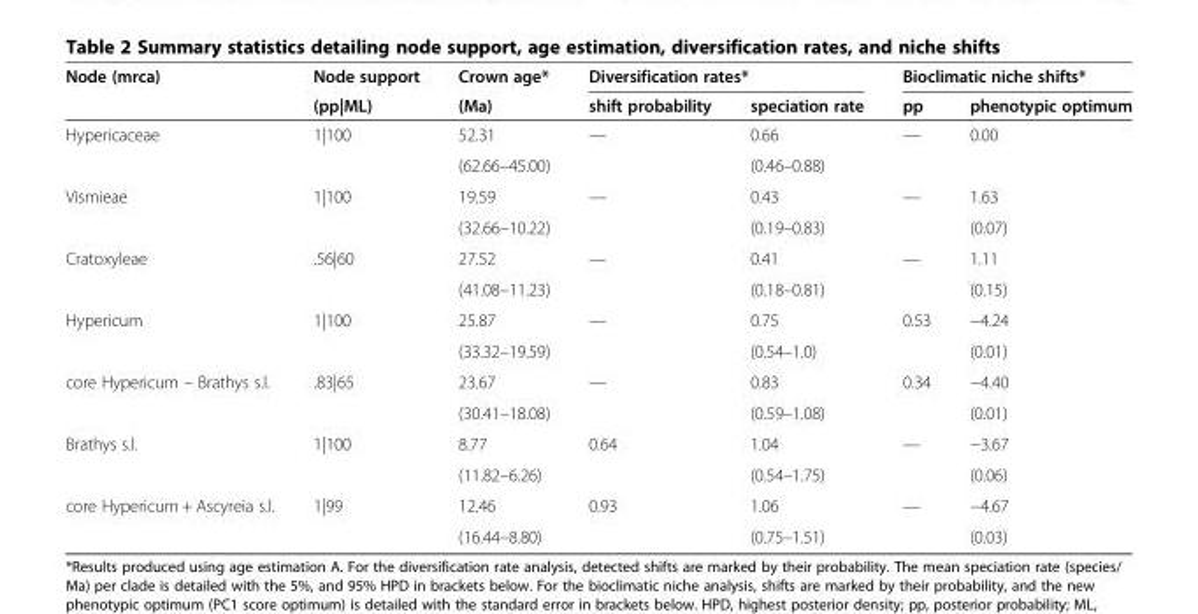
<table><thead><tr><td rowspan="2">Node (mrca)</td><td rowspan="2">Node support (pp|ML)</td><td rowspan="2">Crown age* (Ma)</td><td colspan="2">Diversification rates*</td><td colspan="2">Bioclimatic niche shifts*</td></tr><tr><td>shift probability</td><td>speciation rate</td><td>pp</td><td>phenotypic optimum</td></tr></thead><tbody><tr><td rowspan="2">Hypericaceae</td><td>1|100</td><td>52.31</td><td>—</td><td>0.66</td><td>—</td><td>0.00</td></tr><tr><td></td><td>(62.66–45.00)</td><td></td><td>(0.46–0.88)</td><td></td><td></td></tr><tr><td rowspan="2">Vismieae</td><td>1|100</td><td>19.59</td><td>—</td><td>0.43</td><td>—</td><td>1.63</td></tr><tr><td></td><td>(32.66–10.22)</td><td></td><td>(0.19–0.83)</td><td></td><td>(0.07)</td></tr><tr><td rowspan="2">Cratoxyleae</td><td>.56|60</td><td>27.52</td><td>—</td><td>0.41</td><td>—</td><td>1.11</td></tr><tr><td></td><td>(41.08–11.23)</td><td></td><td>(0.18–0.81)</td><td></td><td>(0.15)</td></tr><tr><td rowspan="2">Hypericum</td><td>1|100</td><td>25.87</td><td>—</td><td>0.75</td><td>0.53</td><td>−4.24</td></tr><tr><td></td><td>(33.32–19.59)</td><td></td><td>(0.54–1.0)</td><td></td><td>(0.01)</td></tr><tr><td rowspan="2">core Hypericum – Brathys s.l.</td><td>.83|65</td><td>23.67</td><td>—</td><td>0.83</td><td>0.34</td><td>−4.40</td></tr><tr><td></td><td>(30.41–18.08)</td><td></td><td>(0.59–1.08)</td><td></td><td>(0.01)</td></tr><tr><td rowspan="2">Brathys s.l.</td><td>1|100</td><td>8.77</td><td>0.64</td><td>1.04</td><td>—</td><td>−3.67</td></tr><tr><td></td><td>(11.82–6.26)</td><td></td><td>(0.54–1.75)</td><td></td><td>(0.06)</td></tr><tr><td rowspan="2">core Hypericum + Ascyreia s.l.</td><td>1|99</td><td>12.46</td><td>0.93</td><td>1.06</td><td>—</td><td>−4.67</td></tr><tr><td></td><td>(16.44–8.80)</td><td></td><td>(0.75–1.51)</td><td></td><td>(0.03)</td></tr></tbody></table>